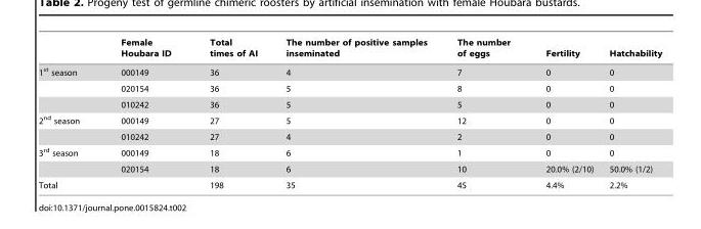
<table><thead><tr><td></td><td>Female Houbara ID</td><td>Total times of AI</td><td>The number of positive samples inseminated</td><td>The number of eggs</td><td>Fertility</td><td>Hatchability</td></tr></thead><tbody><tr><td rowspan="3">1<sup>st</sup> season</td><td>000149</td><td>36</td><td>4</td><td>7</td><td>0</td><td>0</td></tr><tr><td>020154</td><td>36</td><td>5</td><td>8</td><td>0</td><td>0</td></tr><tr><td>010242</td><td>36</td><td>5</td><td>5</td><td>0</td><td>0</td></tr><tr><td rowspan="2">2<sup>nd</sup> season</td><td>000149</td><td>27</td><td>5</td><td>12</td><td>0</td><td>0</td></tr><tr><td>010242</td><td>27</td><td>4</td><td>2</td><td>0</td><td>0</td></tr><tr><td rowspan="2">3<sup>rd</sup> season</td><td>000149</td><td>18</td><td>6</td><td>1</td><td>0</td><td>0</td></tr><tr><td>020154</td><td>18</td><td>6</td><td>10</td><td>20.0% (2/10)</td><td>50.0% (1/2)</td></tr><tr><td>Total</td><td></td><td>198</td><td>35</td><td>45</td><td>4.4%</td><td>2.2%</td></tr></tbody></table>